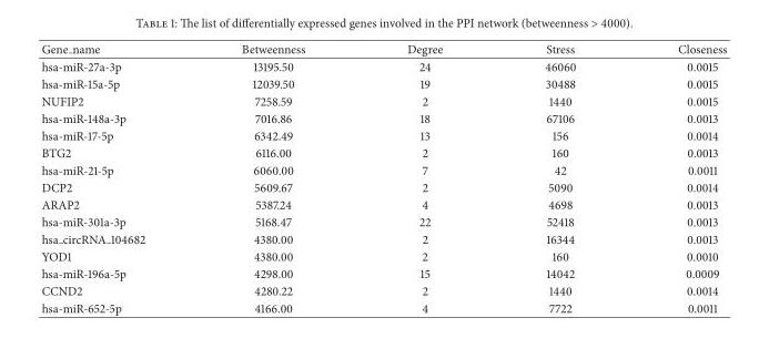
<table><thead><tr><td>Gene name</td><td>Betweenness</td><td>Degree</td><td>Stress</td><td>Closeness</td></tr></thead><tbody><tr><td>hsa-miR-27a-3p</td><td>13195.50</td><td>24</td><td>46060</td><td>0.0015</td></tr><tr><td>hsa-miR-15a-5p</td><td>12039.50</td><td>19</td><td>30488</td><td>0.0015</td></tr><tr><td>NUFIP2</td><td>7258.59</td><td>2</td><td>1440</td><td>0.0015</td></tr><tr><td>hsa-miR-148a-3p</td><td>7016.86</td><td>18</td><td>67106</td><td>0.0013</td></tr><tr><td>hsa-miR-17-5p</td><td>6342.49</td><td>13</td><td>156</td><td>0.0014</td></tr><tr><td>BTG2</td><td>6116.00</td><td>2</td><td>160</td><td>0.0013</td></tr><tr><td>hsa-miR-21-5p</td><td>6060.00</td><td>7</td><td>42</td><td>0.0011</td></tr><tr><td>DCP2</td><td>5609.67</td><td>2</td><td>5090</td><td>0.0014</td></tr><tr><td>ARAP2</td><td>5387.24</td><td>4</td><td>4698</td><td>0.0013</td></tr><tr><td>hsa-miR-301a-3p</td><td>5168.47</td><td>22</td><td>52418</td><td>0.0013</td></tr><tr><td>hsa <sub>circRNA</sub> 104682</td><td>4380.00</td><td>2</td><td>16344</td><td>0.0013</td></tr><tr><td>YOD1</td><td>4380.00</td><td>2</td><td>160</td><td>0.0010</td></tr><tr><td>hsa-miR-196a-5p</td><td>4298.00</td><td>15</td><td>14042</td><td>0.0009</td></tr><tr><td>CCND2</td><td>4280.22</td><td>2</td><td>1440</td><td>0.0014</td></tr><tr><td>hsa-miR-652-5p</td><td>4166.00</td><td>4</td><td>7722</td><td>0.0011</td></tr></tbody></table>